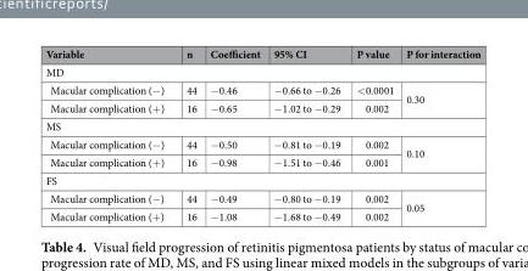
<table><thead><tr><td>Variable</td><td>n</td><td>Coefficient</td><td>95% CI</td><td>P value</td><td>P for interaction</td></tr></thead><tbody><tr><td colspan="6">MD</td></tr><tr><td>Macular complication (−)</td><td>44</td><td>−0.46</td><td>−0.66 to −0.26</td><td>&lt;0.0001</td><td rowspan="2">0.30</td></tr><tr><td>Macular complication (+)</td><td>16</td><td>−0.65</td><td>−1.02 to −0.29</td><td>0.002</td></tr><tr><td colspan="6">MS</td></tr><tr><td>Macular complication (−)</td><td>44</td><td>−0.50</td><td>−0.81 to −0.19</td><td>0.002</td><td rowspan="2">0.10</td></tr><tr><td>Macular complication (+)</td><td>16</td><td>−0.98</td><td>−1.51 to −0.46</td><td>0.001</td></tr><tr><td colspan="6">FS</td></tr><tr><td>Macular complication (−)</td><td>44</td><td>−0.49</td><td>−0.80 to −0.19</td><td>0.002</td><td rowspan="2">0.05</td></tr><tr><td>Macular complication (+)</td><td>16</td><td>−1.08</td><td>−1.68 to −0.49</td><td>0.002</td></tr></tbody></table>